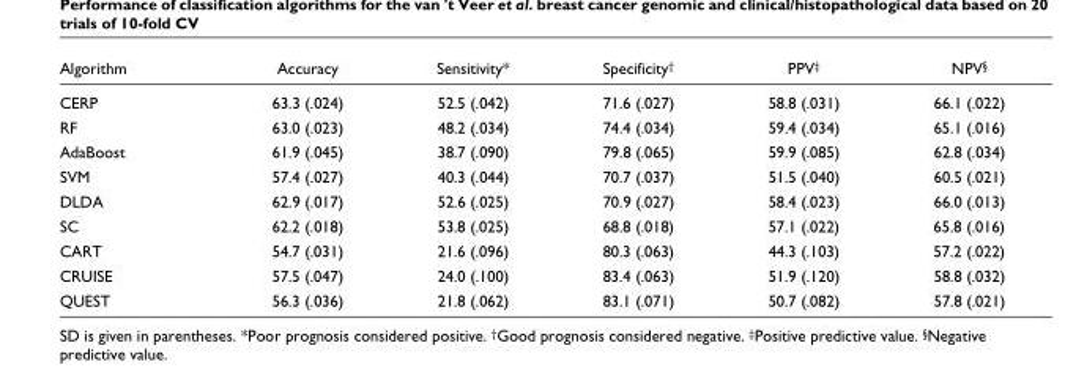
<table><thead><tr><td>Algorithm</td><td>Accuracy</td><td>Sensitivity*</td><td>Specificity†</td><td>PPV‡</td><td>NPV§</td></tr></thead><tbody><tr><td>CERP</td><td>63.3 (.024)</td><td>52.5 (.042)</td><td>71.6 (.027)</td><td>58.8 (.031)</td><td>66.1 (.022)</td></tr><tr><td>RF</td><td>63.0 (.023)</td><td>48.2 (.034)</td><td>74.4 (.034)</td><td>59.4 (.034)</td><td>65.1 (.016)</td></tr><tr><td>AdaBoost</td><td>61.9 (.045)</td><td>38.7 (.090)</td><td>79.8 (.065)</td><td>59.9 (.085)</td><td>62.8 (.034)</td></tr><tr><td>SVM</td><td>57.4 (.027)</td><td>40.3 (.044)</td><td>70.7 (.037)</td><td>51.5 (.040)</td><td>60.5 (.021)</td></tr><tr><td>DLDA</td><td>62.9 (.017)</td><td>52.6 (.025)</td><td>70.9 (.027)</td><td>58.4 (.023)</td><td>66.0 (.013)</td></tr><tr><td>SC</td><td>62.2 (.018)</td><td>53.8 (.025)</td><td>68.8 (.018)</td><td>57.1 (.022)</td><td>65.8 (.016)</td></tr><tr><td>CART</td><td>54.7 (.031)</td><td>21.6 (.096)</td><td>80.3 (.063)</td><td>44.3 (.103)</td><td>57.2 (.022)</td></tr><tr><td>CRUISE</td><td>57.5 (.047)</td><td>24.0 (.100)</td><td>83.4 (.063)</td><td>51.9 (.120)</td><td>58.8 (.032)</td></tr><tr><td>QUEST</td><td>56.3 (.036)</td><td>21.8 (.062)</td><td>83.1 (.071)</td><td>50.7 (.082)</td><td>57.8 (.021)</td></tr></tbody></table>